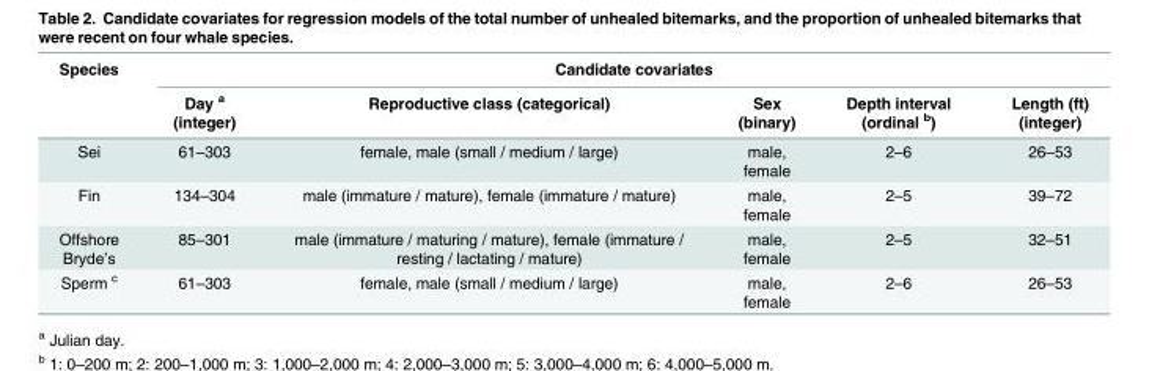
<table><thead><tr><td rowspan="2">Species</td><td colspan="5">Candidate covariates</td></tr><tr><td>Day <sup>a</sup> (integer)</td><td>Reproductive class (categorical)</td><td>Sex (binary)</td><td>Depth interval (ordinal <sup>b</sup>)</td><td>Length (ft) (integer)</td></tr></thead><tbody><tr><td>Sei</td><td>61–303</td><td>female, male (small / medium / large)</td><td>male, female</td><td>2–6</td><td>26–53</td></tr><tr><td>Fin</td><td>134–304</td><td>male (immature / mature), female (immature / mature)</td><td>male, female</td><td>2–5</td><td>39–72</td></tr><tr><td>Offshore Bryde’s</td><td>85–301</td><td>male (immature / maturing / mature), female (immature / resting / lactating / mature)</td><td>male, female</td><td>2–5</td><td>32–51</td></tr><tr><td>Sperm <sup>c</sup></td><td>61–303</td><td>female, male (small / medium / large)</td><td>male, female</td><td>2–6</td><td>26–53</td></tr></tbody></table>